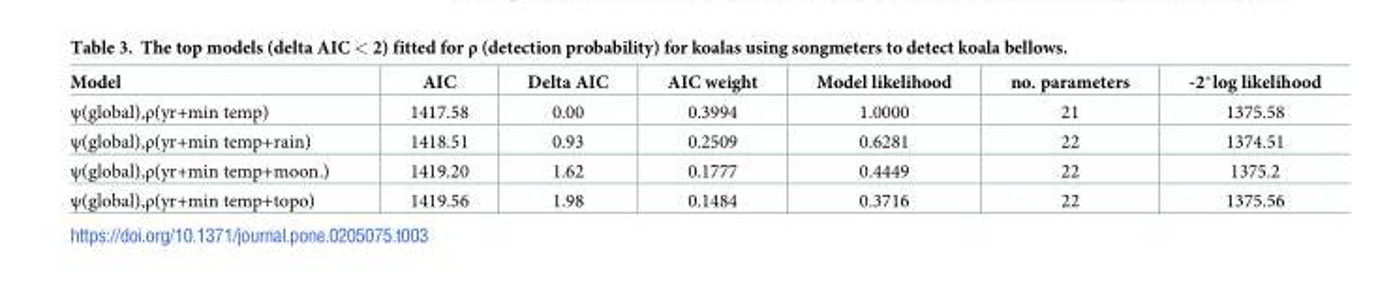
<table><thead><tr><td>Model</td><td>AIC</td><td>Delta AIC</td><td>AIC weight</td><td>Model likelihood</td><td>no. parameters</td><td>-2*log likelihood</td></tr></thead><tbody><tr><td>ψ(global),ρ(yr+min temp)</td><td>1417.58</td><td>0.00</td><td>0.3994</td><td>1.0000</td><td>21</td><td>1375.58</td></tr><tr><td>ψ(global),ρ(yr+min temp+rain)</td><td>1418.51</td><td>0.93</td><td>0.2509</td><td>0.6281</td><td>22</td><td>1374.51</td></tr><tr><td>ψ(global),ρ(yr+min temp+moon.)</td><td>1419.20</td><td>1.62</td><td>0.1777</td><td>0.4449</td><td>22</td><td>1375.2</td></tr><tr><td>ψ(global),ρ(yr+min temp+topo)</td><td>1419.56</td><td>1.98</td><td>0.1484</td><td>0.3716</td><td>22</td><td>1375.56</td></tr></tbody></table>